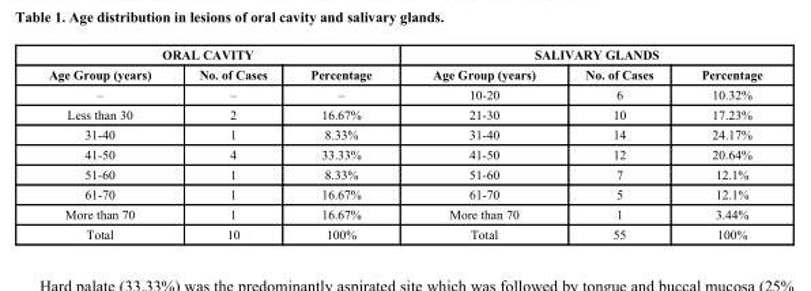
<table><thead><tr><td colspan="3">ORAL CAVITY</td><td colspan="3">SALIVARY GLANDS</td></tr><tr><td>Age Group (years)</td><td>No. of Cases</td><td>Percentage</td><td>Age Group (years)</td><td>No. of Cases</td><td>Percentage</td></tr></thead><tbody><tr><td>–</td><td>–</td><td>–</td><td>10-20</td><td>6</td><td>10.32%</td></tr><tr><td>Less than 30</td><td>2</td><td>16.67%</td><td>21-30</td><td>10</td><td>17.23%</td></tr><tr><td>31-40</td><td>1</td><td>8.33%</td><td>31-40</td><td>14</td><td>24.17%</td></tr><tr><td>41-50</td><td>4</td><td>33.33%</td><td>41-50</td><td>12</td><td>20.64%</td></tr><tr><td>51-60</td><td>1</td><td>8.33%</td><td>51-60</td><td>7</td><td>12.1%</td></tr><tr><td>61-70</td><td>1</td><td>16.67%</td><td>61-70</td><td>5</td><td>12.1%</td></tr><tr><td>More than 70</td><td>1</td><td>16.67%</td><td>More than 70</td><td>1</td><td>3.44%</td></tr><tr><td>Total</td><td>10</td><td>100%</td><td>Total</td><td>55</td><td>100%</td></tr></tbody></table>